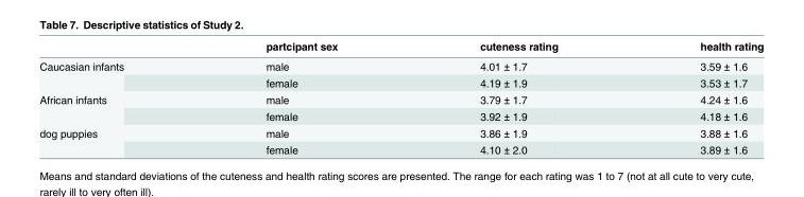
<table><thead><tr><td></td><td>partcipant sex</td><td>cuteness rating</td><td>health rating</td></tr></thead><tbody><tr><td rowspan="2">Caucasian infants</td><td>male</td><td>4.01 ± 1.7</td><td>3.59 ± 1.6</td></tr><tr><td>female</td><td>4.19 ± 1.9</td><td>3.53 ± 1.7</td></tr><tr><td rowspan="2">African infants</td><td>male</td><td>3.79 ± 1.7</td><td>4.24 ± 1.6</td></tr><tr><td>female</td><td>3.92 ± 1.9</td><td>4.18 ± 1.6</td></tr><tr><td rowspan="2">dog puppies</td><td>male</td><td>3.86 ± 1.9</td><td>3.88 ± 1.6</td></tr><tr><td>female</td><td>4.10 ± 2.0</td><td>3.89 ± 1.6</td></tr></tbody></table>